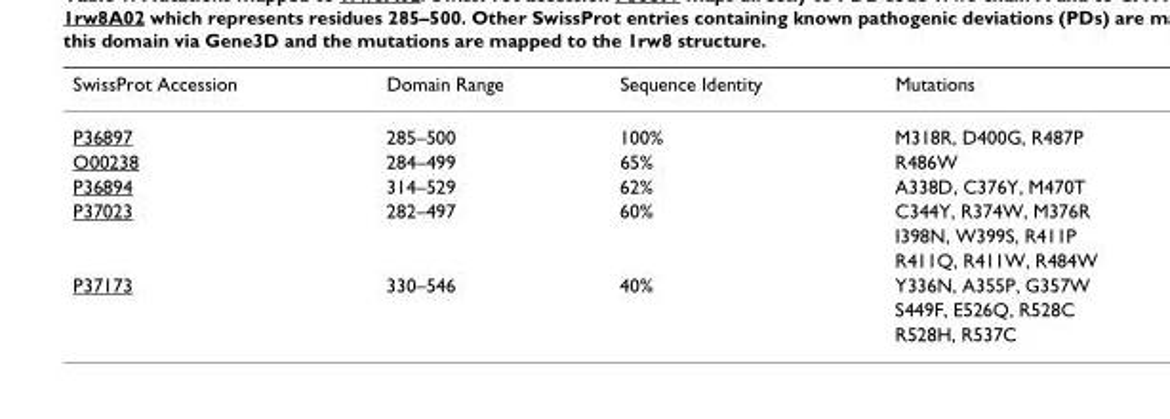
<table><thead><tr><td>SwissProt Accession</td><td>Domain Range</td><td>Sequence Identity</td><td>Mutations</td></tr></thead><tbody><tr><td>P36897</td><td>285–500</td><td>100%</td><td>M318R, D400G, R487P</td></tr><tr><td>O00238</td><td>284–499</td><td>65%</td><td>R486W</td></tr><tr><td>P36894</td><td>314–529</td><td>62%</td><td>A338D, C376Y, M470T</td></tr><tr><td rowspan="3">P37023</td><td>282–497</td><td>60%</td><td>C344Y, R374W, M376R</td></tr><tr><td></td><td></td><td>I398N, W399S, R411P</td></tr><tr><td></td><td></td><td>R411Q, R411W, R484W</td></tr><tr><td rowspan="3">P37173</td><td>330–546</td><td>40%</td><td>Y336N, A355P, G357W</td></tr><tr><td></td><td></td><td>S449F, E526Q, R528C</td></tr><tr><td></td><td></td><td>R528H, R537C</td></tr></tbody></table>